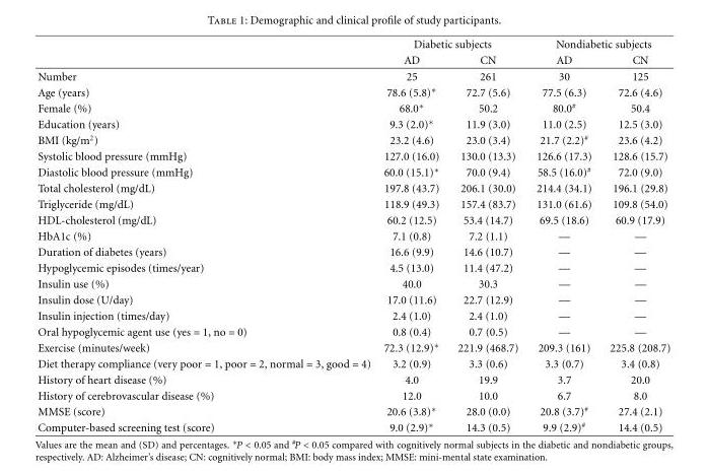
<table><thead><tr><td rowspan="2"></td><td colspan="2">Diabetic subjects</td><td colspan="2">Nondiabetic subjects</td></tr><tr><td>AD</td><td>CN</td><td>AD</td><td>CN</td></tr></thead><tbody><tr><td>Number</td><td>25</td><td>261</td><td>30</td><td>125</td></tr><tr><td>Age (years)</td><td>78.6 (5.8)∗</td><td>72.7 (5.6)</td><td>77.5 (6.3)</td><td>72.6 (4.6)</td></tr><tr><td>Female (%)</td><td>68.0∗</td><td>50.2</td><td>80.0<sup>#</sup></td><td>50.4</td></tr><tr><td>Education (years)</td><td>9.3 (2.0)∗</td><td>11.9 (3.0)</td><td>11.0 (2.5)</td><td>12.5 (3.0)</td></tr><tr><td>BMI (kg/m<sup>2</sup>)</td><td>23.2 (4.6)</td><td>23.0 (3.4)</td><td>21.7 (2.2)<sup>#</sup></td><td>23.6 (4.2)</td></tr><tr><td>Systolic blood pressure (mmHg)</td><td>127.0 (16.0)</td><td>130.0 (13.3)</td><td>126.6 (17.3)</td><td>128.6 (15.7)</td></tr><tr><td>Diastolic blood pressure (mmHg)</td><td>60.0 (15.1)∗</td><td>70.0 (9.4)</td><td>58.5 (16.0)<sup>#</sup></td><td>72.0 (9.0)</td></tr><tr><td>Total cholesterol (mg/dL)</td><td>197.8 (43.7)</td><td>206.1 (30.0)</td><td>214.4 (34.1)</td><td>196.1 (29.8)</td></tr><tr><td>Triglyceride (mg/dL)</td><td>118.9 (49.3)</td><td>157.4 (83.7)</td><td>131.0 (61.6)</td><td>109.8 (54.0)</td></tr><tr><td>HDL-cholesterol (mg/dL)</td><td>60.2 (12.5)</td><td>53.4 (14.7)</td><td>69.5 (18.6)</td><td>60.9 (17.9)</td></tr><tr><td>HbA1c (%)</td><td>7.1 (0.8)</td><td>7.2 (1.1)</td><td>—</td><td>—</td></tr><tr><td>Duration of diabetes (years)</td><td>16.6 (9.9)</td><td>14.6 (10.7)</td><td>—</td><td>—</td></tr><tr><td>Hypoglycemic episodes (times/year)</td><td>4.5 (13.0)</td><td>11.4 (47.2)</td><td>—</td><td>—</td></tr><tr><td>Insulin use (%)</td><td>40.0</td><td>30.3</td><td>—</td><td>—</td></tr><tr><td>Insulin dose (U/day)</td><td>17.0 (11.6)</td><td>22.7 (12.9)</td><td>—</td><td>—</td></tr><tr><td>Insulin injection (times/day)</td><td>2.4 (1.0)</td><td>2.4 (1.0)</td><td>—</td><td>—</td></tr><tr><td>Oral hypoglycemic agent use (yes = 1, no = 0)</td><td>0.8 (0.4)</td><td>0.7 (0.5)</td><td>—</td><td>—</td></tr><tr><td>Exercise (minutes/week)</td><td>72.3 (12.9)∗</td><td>221.9 (468.7)</td><td>209.3 (161)</td><td>225.8 (208.7)</td></tr><tr><td>Diet therapy compliance (very poor = 1, poor = 2, normal = 3, good = 4)</td><td>3.2 (0.9)</td><td>3.3 (0.6)</td><td>3.3 (0.7)</td><td>3.4 (0.8)</td></tr><tr><td>History of heart disease (%)</td><td>4.0</td><td>19.9</td><td>3.7</td><td>20.0</td></tr><tr><td>History of cerebrovascular disease (%)</td><td>12.0</td><td>10.0</td><td>6.7</td><td>8.0</td></tr><tr><td>MMSE (score)</td><td>20.6 (3.8)∗</td><td>28.0 (0.0)</td><td>20.8 (3.7)<sup>#</sup></td><td>27.4 (2.1)</td></tr><tr><td>Computer-based screening test (score)</td><td>9.0 (2.9)∗</td><td>14.3 (0.5)</td><td>9.9 (2.9)<sup>#</sup></td><td>14.4 (0.5)</td></tr></tbody></table>